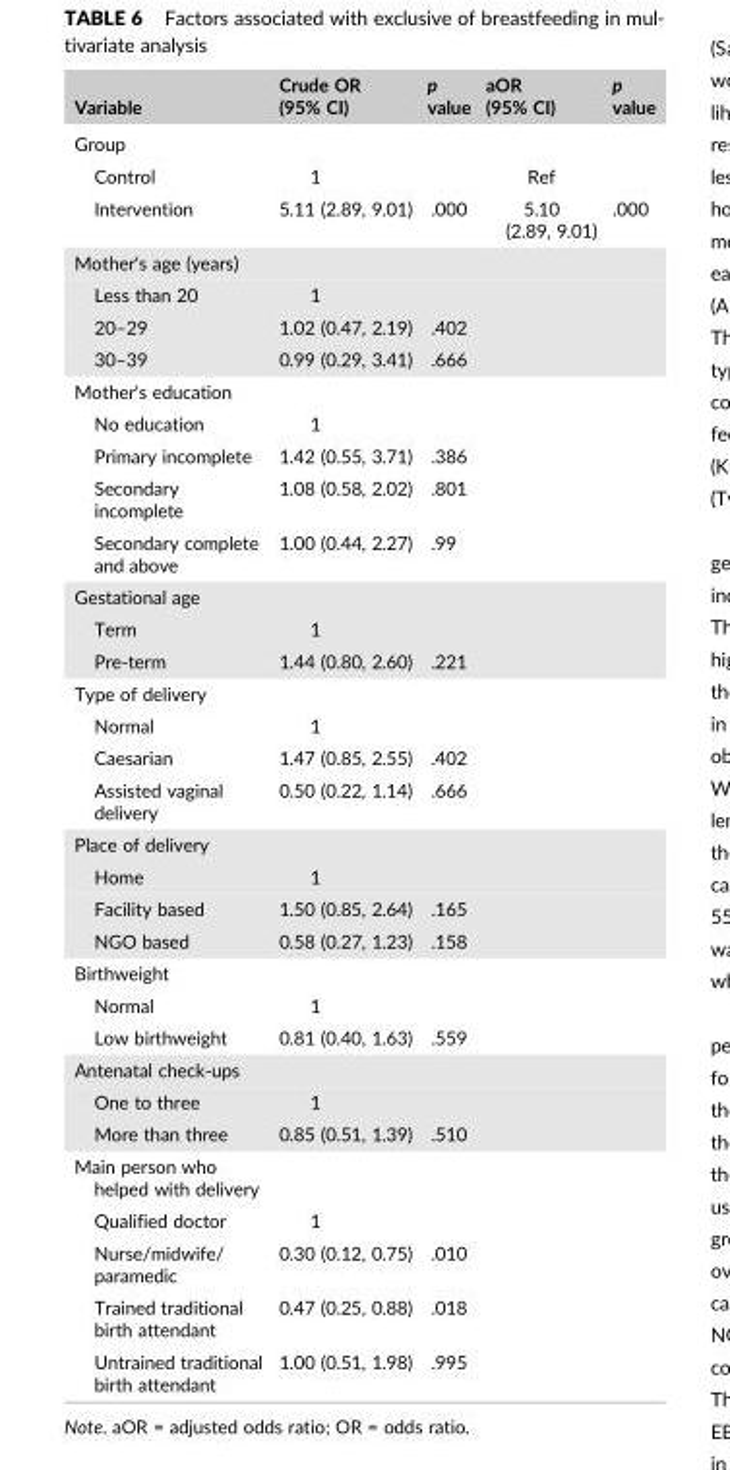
<table><thead><tr><td>Variable</td><td>Crude OR (95% CI)</td><td>p value</td><td>aOR (95% CI)</td><td>p value</td></tr></thead><tbody><tr><td colspan="5">Group</td></tr><tr><td>Control</td><td>1</td><td></td><td>Ref</td><td></td></tr><tr><td>Intervention</td><td>5.11 (2.89, 9.01)</td><td>.000</td><td>5.10 (2.89, 9.01)</td><td>.000</td></tr><tr><td colspan="5">Mother&#x27;s age (years)</td></tr><tr><td>Less than 20</td><td>1</td><td></td><td></td><td></td></tr><tr><td>20–29</td><td>1.02 (0.47, 2.19)</td><td>.402</td><td></td><td></td></tr><tr><td>30–39</td><td>0.99 (0.29, 3.41)</td><td>.666</td><td></td><td></td></tr><tr><td colspan="5">Mother&#x27;s education</td></tr><tr><td>No education</td><td>1</td><td></td><td></td><td></td></tr><tr><td>Primary incomplete</td><td>1.42 (0.55, 3.71)</td><td>.386</td><td></td><td></td></tr><tr><td>Secondary incomplete</td><td>1.08 (0.58, 2.02)</td><td>.801</td><td></td><td></td></tr><tr><td>Secondary complete and above</td><td>1.00 (0.44, 2.27)</td><td>.99</td><td></td><td></td></tr><tr><td colspan="5">Gestational age</td></tr><tr><td>Term</td><td>1</td><td></td><td></td><td></td></tr><tr><td>Pre‐term</td><td>1.44 (0.80, 2.60)</td><td>.221</td><td></td><td></td></tr><tr><td colspan="5">Type of delivery</td></tr><tr><td>Normal</td><td>1</td><td></td><td></td><td></td></tr><tr><td>Caesarian</td><td>1.47 (0.85, 2.55)</td><td>.402</td><td></td><td></td></tr><tr><td>Assisted vaginal delivery</td><td>0.50 (0.22, 1.14)</td><td>.666</td><td></td><td></td></tr><tr><td colspan="5">Place of delivery</td></tr><tr><td>Home</td><td>1</td><td></td><td></td><td></td></tr><tr><td>Facility based</td><td>1.50 (0.85, 2.64)</td><td>.165</td><td></td><td></td></tr><tr><td>NGO based</td><td>0.58 (0.27, 1.23)</td><td>.158</td><td></td><td></td></tr><tr><td colspan="5">Birthweight</td></tr><tr><td>Normal</td><td>1</td><td></td><td></td><td></td></tr><tr><td>Low birthweight</td><td>0.81 (0.40, 1.63)</td><td>.559</td><td></td><td></td></tr><tr><td colspan="5">Antenatal check‐ups</td></tr><tr><td>One to three</td><td>1</td><td></td><td></td><td></td></tr><tr><td>More than three</td><td>0.85 (0.51, 1.39)</td><td>.510</td><td></td><td></td></tr><tr><td colspan="5">Main person who helped with delivery</td></tr><tr><td>Qualified doctor</td><td>1</td><td></td><td></td><td></td></tr><tr><td>Nurse/midwife/ paramedic</td><td>0.30 (0.12, 0.75)</td><td>.010</td><td></td><td></td></tr><tr><td>Trained traditional birth attendant</td><td>0.47 (0.25, 0.88)</td><td>.018</td><td></td><td></td></tr><tr><td>Untrained traditional birth attendant</td><td>1.00 (0.51, 1.98)</td><td>.995</td><td></td><td></td></tr></tbody></table>